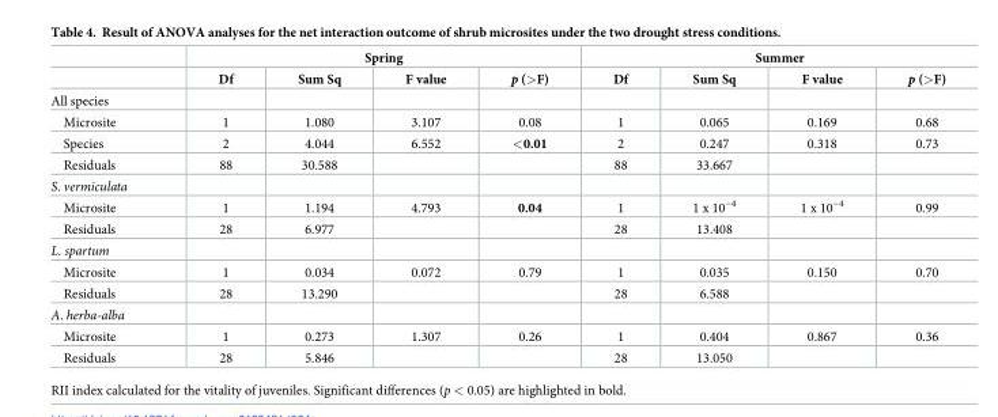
<table><thead><tr><td rowspan="2"></td><td colspan="4">Spring</td><td colspan="4">Summer</td></tr><tr><td>Df</td><td>Sum Sq</td><td>F value</td><td>p (&gt;F)</td><td>Df</td><td>Sum Sq</td><td>F value</td><td>p (&gt;F)</td></tr></thead><tbody><tr><td colspan="9">All species</td></tr><tr><td>Microsite</td><td>1</td><td>1.080</td><td>3.107</td><td>0.08</td><td>1</td><td>0.065</td><td>0.169</td><td>0.68</td></tr><tr><td>Species</td><td>2</td><td>4.044</td><td>6.552</td><td>&lt;0.01</td><td>2</td><td>0.247</td><td>0.318</td><td>0.73</td></tr><tr><td>Residuals</td><td>88</td><td>30.588</td><td></td><td></td><td>88</td><td>33.667</td><td></td><td></td></tr><tr><td colspan="9">S. vermiculata</td></tr><tr><td>Microsite</td><td>1</td><td>1.194</td><td>4.793</td><td>0.04</td><td>1</td><td>1 x 10<sup>−4</sup></td><td>1 x 10<sup>−4</sup></td><td>0.99</td></tr><tr><td>Residuals</td><td>28</td><td>6.977</td><td></td><td></td><td>28</td><td>13.408</td><td></td><td></td></tr><tr><td colspan="9">L. spartum</td></tr><tr><td>Microsite</td><td>1</td><td>0.034</td><td>0.072</td><td>0.79</td><td>1</td><td>0.035</td><td>0.150</td><td>0.70</td></tr><tr><td>Residuals</td><td>28</td><td>13.290</td><td></td><td></td><td>28</td><td>6.588</td><td></td><td></td></tr><tr><td colspan="9">A. herba-alba</td></tr><tr><td>Microsite</td><td>1</td><td>0.273</td><td>1.307</td><td>0.26</td><td>1</td><td>0.404</td><td>0.867</td><td>0.36</td></tr><tr><td>Residuals</td><td>28</td><td>5.846</td><td></td><td></td><td>28</td><td>13.050</td><td></td><td></td></tr></tbody></table>